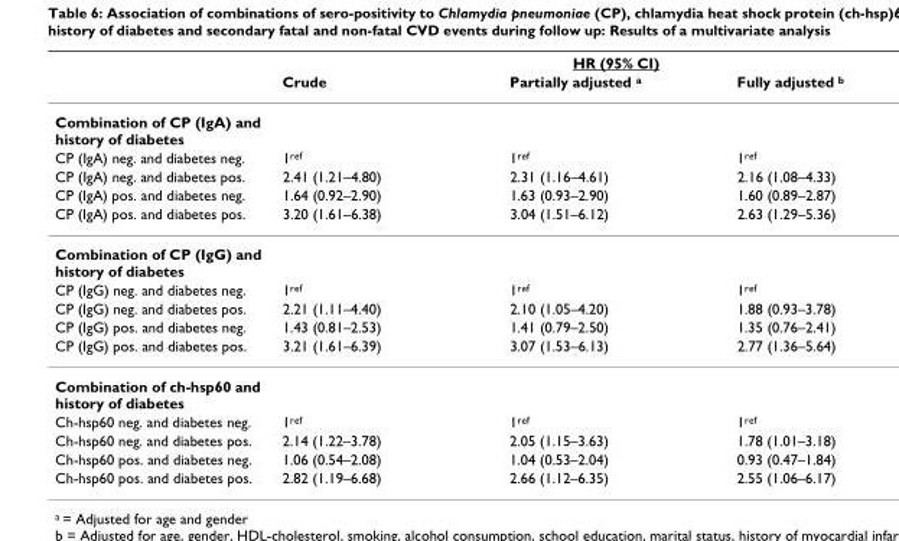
<table><thead><tr><td rowspan="2"></td><td colspan="3">HR (95% CI)</td></tr><tr><td>Crude</td><td>Partially adjusted <sup>a</sup></td><td>Fully adjusted <sup>b</sup></td></tr></thead><tbody><tr><td colspan="4">Combination of CP (IgA) and history of diabetes</td></tr><tr><td>CP (IgA) neg. and diabetes neg.</td><td>1<sup>ref</sup></td><td>1<sup>ref</sup></td><td>1<sup>ref</sup></td></tr><tr><td>CP (IgA) neg. and diabetes pos.</td><td>2.41 (1.21–4.80)</td><td>2.31 (1.16–4.61)</td><td>2.16 (1.08–4.33)</td></tr><tr><td>CP (IgA) pos. and diabetes neg.</td><td>1.64 (0.92–2.90)</td><td>1.63 (0.93–2.90)</td><td>1.60 (0.89–2.87)</td></tr><tr><td>CP (IgA) pos. and diabetes pos.</td><td>3.20 (1.61–6.38)</td><td>3.04 (1.51–6.12)</td><td>2.63 (1.29–5.36)</td></tr><tr><td colspan="4">Combination of CP (IgG) and history of diabetes</td></tr><tr><td>CP (IgG) neg. and diabetes neg.</td><td>1<sup>ref</sup></td><td>1<sup>ref</sup></td><td>1<sup>ref</sup></td></tr><tr><td>CP (IgG) neg. and diabetes pos.</td><td>2.21 (1.11–4.40)</td><td>2.10 (1.05–4.20)</td><td>1.88 (0.93–3.78)</td></tr><tr><td>CP (IgG) pos. and diabetes neg.</td><td>1.43 (0.81–2.53)</td><td>1.41 (0.79–2.50)</td><td>1.35 (0.76–2.41)</td></tr><tr><td>CP (IgG) pos. and diabetes pos.</td><td>3.21 (1.61–6.39)</td><td>3.07 (1.53–6.13)</td><td>2.77 (1.36–5.64)</td></tr><tr><td colspan="4">Combination of ch-hsp60 and history of diabetes</td></tr><tr><td>Ch-hsp60 neg. and diabetes neg.</td><td>1<sup>ref</sup></td><td>1<sup>ref</sup></td><td>1<sup>ref</sup></td></tr><tr><td>Ch-hsp60 neg. and diabetes pos.</td><td>2.14 (1.22–3.78)</td><td>2.05 (1.15–3.63)</td><td>1.78 (1.01–3.18)</td></tr><tr><td>Ch-hsp60 pos. and diabetes neg.</td><td>1.06 (0.54–2.08)</td><td>1.04 (0.53–2.04)</td><td>0.93 (0.47–1.84)</td></tr><tr><td>Ch-hsp60 pos. and diabetes pos.</td><td>2.82 (1.19–6.68)</td><td>2.66 (1.12–6.35)</td><td>2.55 (1.06–6.17)</td></tr></tbody></table>